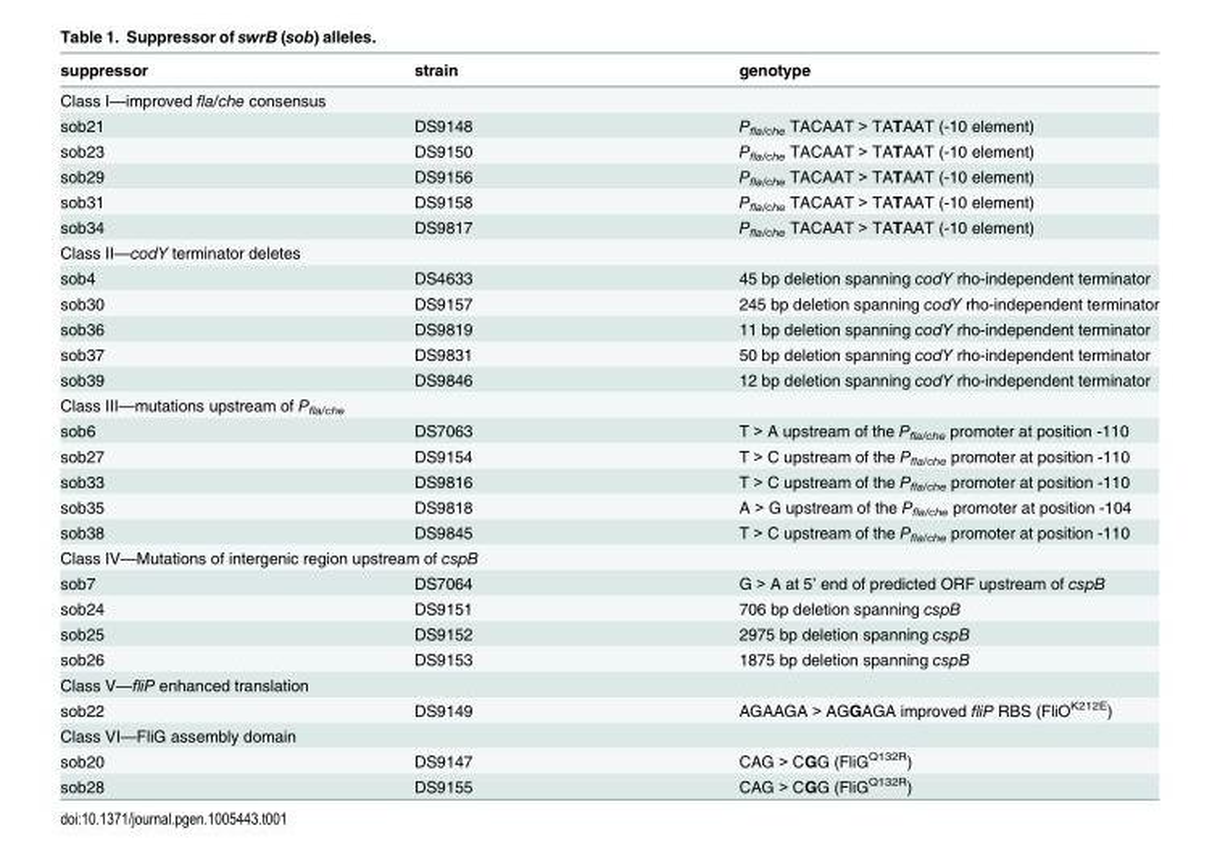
<table><thead><tr><td>suppressor</td><td>strain</td><td>genotype</td></tr></thead><tbody><tr><td colspan="3">Class I—improved fla/che consensus</td></tr><tr><td>sob21</td><td>DS9148</td><td>P<sub>fla/che</sub> TACAAT &gt; TATAAT (-10 element)</td></tr><tr><td>sob23</td><td>DS9150</td><td>P<sub>fla/che</sub> TACAAT &gt; TATAAT (-10 element)</td></tr><tr><td>sob29</td><td>DS9156</td><td>P<sub>fla/che</sub> TACAAT &gt; TATAAT (-10 element)</td></tr><tr><td>sob31</td><td>DS9158</td><td>P<sub>fla/che</sub> TACAAT &gt; TATAAT (-10 element)</td></tr><tr><td>sob34</td><td>DS9817</td><td>P<sub>fla/che</sub> TACAAT &gt; TATAAT (-10 element)</td></tr><tr><td colspan="3">Class II—codY terminator deletes</td></tr><tr><td>sob4</td><td>DS4633</td><td>45 bp deletion spanning codY rho-independent terminator</td></tr><tr><td>sob30</td><td>DS9157</td><td>245 bp deletion spanning codY rho-independent terminator</td></tr><tr><td>sob36</td><td>DS9819</td><td>11 bp deletion spanning codY rho-independent terminator</td></tr><tr><td>sob37</td><td>DS9831</td><td>50 bp deletion spanning codY rho-independent terminator</td></tr><tr><td>sob39</td><td>DS9846</td><td>12 bp deletion spanning codY rho-independent terminator</td></tr><tr><td colspan="3">Class III—mutations upstream of P<sub>fla/che</sub></td></tr><tr><td>sob6</td><td>DS7063</td><td>T &gt; A upstream of the P<sub>fla/che</sub> promoter at position -110</td></tr><tr><td>sob27</td><td>DS9154</td><td>T &gt; C upstream of the P<sub>fla/che</sub> promoter at position -110</td></tr><tr><td>sob33</td><td>DS9816</td><td>T &gt; C upstream of the P<sub>fla/che</sub> promoter at position -110</td></tr><tr><td>sob35</td><td>DS9818</td><td>A &gt; G upstream of the P<sub>fla/che</sub> promoter at position -104</td></tr><tr><td>sob38</td><td>DS9845</td><td>T &gt; C upstream of the P<sub>fla/che</sub> promoter at position -110</td></tr><tr><td colspan="3">Class IV—Mutations of intergenic region upstream of cspB</td></tr><tr><td>sob7</td><td>DS7064</td><td>G &gt; A at 5’ end of predicted ORF upstream of cspB</td></tr><tr><td>sob24</td><td>DS9151</td><td>706 bp deletion spanning cspB</td></tr><tr><td>sob25</td><td>DS9152</td><td>2975 bp deletion spanning cspB</td></tr><tr><td>sob26</td><td>DS9153</td><td>1875 bp deletion spanning cspB</td></tr><tr><td colspan="3">Class V—fliP enhanced translation</td></tr><tr><td>sob22</td><td>DS9149</td><td>AGAAGA &gt; AGGAGA improved fliP RBS (FliO<sup>K212E</sup>)</td></tr><tr><td colspan="3">Class VI—FliG assembly domain</td></tr><tr><td>sob20</td><td>DS9147</td><td>CAG &gt; CGG (FliG<sup>Q132R</sup>)</td></tr><tr><td>sob28</td><td>DS9155</td><td>CAG &gt; CGG (FliG<sup>Q132R</sup>)</td></tr></tbody></table>